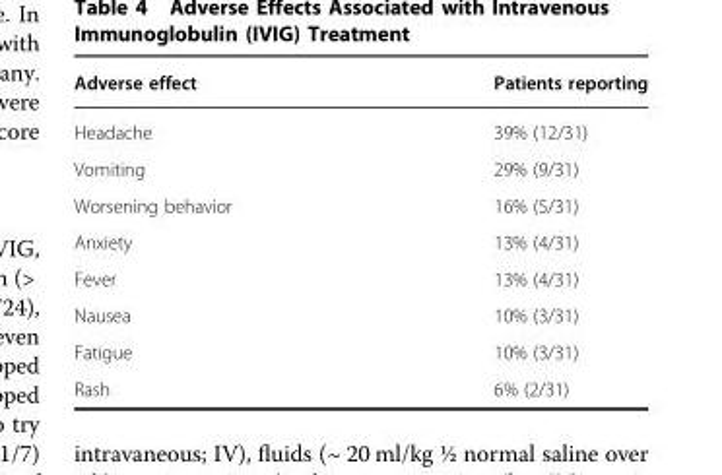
<table><thead><tr><td>Adverse effect</td><td>Patients reporting</td></tr></thead><tbody><tr><td>Headache</td><td>39% (12/31)</td></tr><tr><td>Vomiting</td><td>29% (9/31)</td></tr><tr><td>Worsening behavior</td><td>16% (5/31)</td></tr><tr><td>Anxiety</td><td>13% (4/31)</td></tr><tr><td>Fever</td><td>13% (4/31)</td></tr><tr><td>Nausea</td><td>10% (3/31)</td></tr><tr><td>Fatigue</td><td>10% (3/31)</td></tr><tr><td>Rash</td><td>6% (2/31)</td></tr></tbody></table>